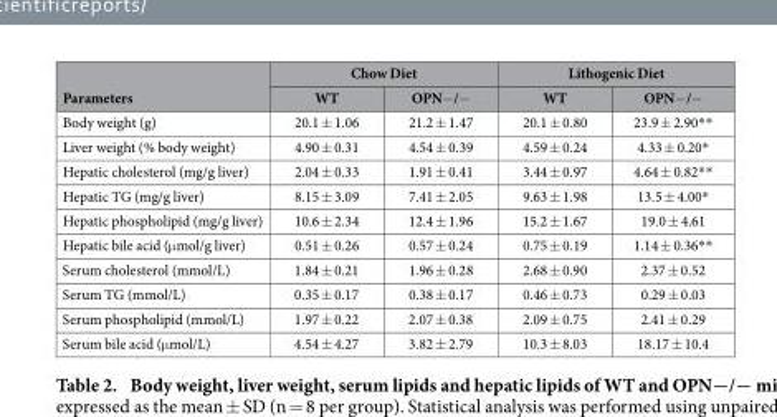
<table><thead><tr><td rowspan="2">Parameters</td><td colspan="2">Chow Diet</td><td colspan="2">Lithogenic Diet</td></tr><tr><td>WT</td><td>OPN− /−</td><td>WT</td><td>OPN− /−</td></tr></thead><tbody><tr><td>Body weight (g)</td><td>20.1 ± 1.06</td><td>21.2 ± 1.47</td><td>20.1 ± 0.80</td><td>23.9 ± 2.90* *</td></tr><tr><td>Liver weight (% body weight)</td><td>4.90 ± 0.31</td><td>4.54 ± 0.39</td><td>4.59 ± 0.24</td><td>4.33 ± 0.20*</td></tr><tr><td>Hepatic cholesterol (mg/g liver)</td><td>2.04 ± 0.33</td><td>1.91 ± 0.41</td><td>3.44 ± 0.97</td><td>4.64 ± 0.82* *</td></tr><tr><td>Hepatic TG (mg/g liver)</td><td>8.15 ± 3.09</td><td>7.41 ± 2.05</td><td>9.63 ± 1.98</td><td>13.5 ± 4.00*</td></tr><tr><td>Hepatic phospholipid (mg/g liver)</td><td>10.6 ± 2.34</td><td>12.4 ± 1.96</td><td>15.2 ± 1.67</td><td>19.0 ± 4.61</td></tr><tr><td>Hepatic bile acid (μ mol/g liver)</td><td>0.51 ± 0.26</td><td>0.57 ± 0.24</td><td>0.75 ± 0.19</td><td>1.14 ± 0.36* *</td></tr><tr><td>Serum cholesterol (mmol/L)</td><td>1.84 ± 0.21</td><td>1.96 ± 0.28</td><td>2.68 ± 0.90</td><td>2.37 ± 0.52</td></tr><tr><td>Serum TG (mmol/L)</td><td>0.35 ± 0.17</td><td>0.38 ± 0.17</td><td>0.46 ± 0.73</td><td>0.29 ± 0.03</td></tr><tr><td>Serum phospholipid (mmol/L)</td><td>1.97 ± 0.22</td><td>2.07 ± 0.38</td><td>2.09 ± 0.75</td><td>2.41 ± 0.29</td></tr><tr><td>Serum bile acid (μ mol/L)</td><td>4.54 ± 4.27</td><td>3.82 ± 2.79</td><td>10.3 ± 8.03</td><td>18.17 ± 10.4</td></tr></tbody></table>